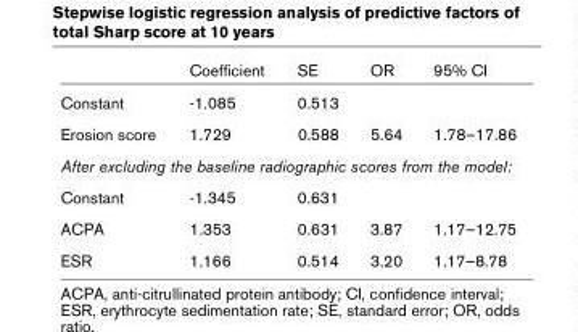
<table><thead><tr><td></td><td>Coefficient</td><td>SE</td><td>OR</td><td>95% CI</td></tr></thead><tbody><tr><td>Constant</td><td>-1.085</td><td>0.513</td><td></td><td></td></tr><tr><td>Erosion score</td><td>1.729</td><td>0.588</td><td>5.64</td><td>1.78–17.86</td></tr><tr><td colspan="5">After excluding the baseline radiographic scores from the model:</td></tr><tr><td>Constant</td><td>-1.345</td><td>0.631</td><td></td><td></td></tr><tr><td>ACPA</td><td>1.353</td><td>0.631</td><td>3.87</td><td>1.17–12.75</td></tr><tr><td>ESR</td><td>1.166</td><td>0.514</td><td>3.20</td><td>1.17–8.78</td></tr></tbody></table>